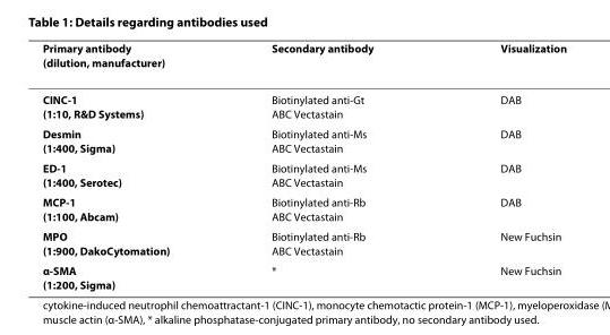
<table><thead><tr><td>Primary antibody (dilution, manufacturer)</td><td>Secondary antibody</td><td>Visualization</td></tr></thead><tbody><tr><td>CINC-1 (1:10, R&amp;D Systems)</td><td>Biotinylated anti-Gt ABC Vectastain</td><td>DAB</td></tr><tr><td>Desmin (1:400, Sigma)</td><td>Biotinylated anti-Ms ABC Vectastain</td><td>DAB</td></tr><tr><td>ED-1 (1:400, Serotec)</td><td>Biotinylated anti-Ms ABC Vectastain</td><td>DAB</td></tr><tr><td>MCP-1 (1:100, Abcam)</td><td>Biotinylated anti-Rb ABC Vectastain</td><td>DAB</td></tr><tr><td>MPO (1:900, DakoCytomation)</td><td>Biotinylated anti-Rb ABC Vectastain</td><td>New Fuchsin</td></tr><tr><td>α-SMA (1:200, Sigma)</td><td>*</td><td>New Fuchsin</td></tr></tbody></table>